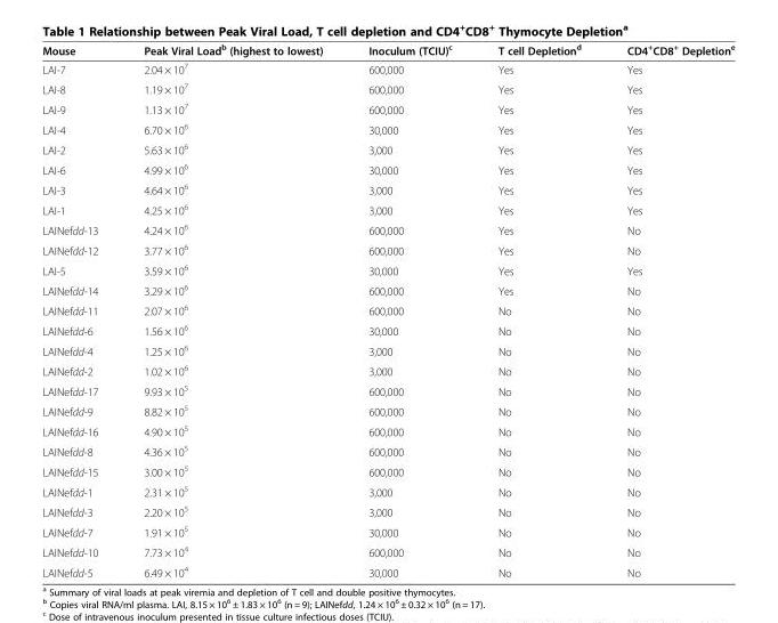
<table><thead><tr><td>Mouse</td><td>Peak Viral Load<sup>b</sup> (highest to lowest)</td><td>Inoculum (TCIU)<sup>c</sup></td><td>T cell Depletion<sup>d</sup></td><td>CD4<sup>+</sup>CD8<sup>+</sup> Depletion<sup>e</sup></td></tr></thead><tbody><tr><td>LAI-7</td><td>2.04 × 10<sup>7</sup></td><td>600,000</td><td>Yes</td><td>Yes</td></tr><tr><td>LAI-8</td><td>1.19 × 10<sup>7</sup></td><td>600,000</td><td>Yes</td><td>Yes</td></tr><tr><td>LAI-9</td><td>1.13 × 10<sup>7</sup></td><td>600,000</td><td>Yes</td><td>Yes</td></tr><tr><td>LAI-4</td><td>6.70 × 10<sup>6</sup></td><td>30,000</td><td>Yes</td><td>Yes</td></tr><tr><td>LAI-2</td><td>5.63 × 10<sup>6</sup></td><td>3,000</td><td>Yes</td><td>Yes</td></tr><tr><td>LAI-6</td><td>4.99 × 10<sup>6</sup></td><td>30,000</td><td>Yes</td><td>Yes</td></tr><tr><td>LAI-3</td><td>4.64 × 10<sup>6</sup></td><td>3,000</td><td>Yes</td><td>Yes</td></tr><tr><td>LAI-1</td><td>4.25 × 10<sup>6</sup></td><td>3,000</td><td>Yes</td><td>Yes</td></tr><tr><td>LAINefdd-13</td><td>4.24 × 10<sup>6</sup></td><td>600,000</td><td>Yes</td><td>No</td></tr><tr><td>LAINefdd-12</td><td>3.77 × 10<sup>6</sup></td><td>600,000</td><td>Yes</td><td>No</td></tr><tr><td>LAI-5</td><td>3.59 × 10<sup>6</sup></td><td>30,000</td><td>Yes</td><td>Yes</td></tr><tr><td>LAINefdd-14</td><td>3.29 × 10<sup>6</sup></td><td>600,000</td><td>Yes</td><td>No</td></tr><tr><td>LAINefdd-11</td><td>2.07 × 10<sup>6</sup></td><td>600,000</td><td>No</td><td>No</td></tr><tr><td>LAINefdd-6</td><td>1.56 × 10<sup>6</sup></td><td>30,000</td><td>No</td><td>No</td></tr><tr><td>LAINefdd-4</td><td>1.25 × 10<sup>6</sup></td><td>3,000</td><td>No</td><td>No</td></tr><tr><td>LAINefdd-2</td><td>1.02 × 10<sup>6</sup></td><td>3,000</td><td>No</td><td>No</td></tr><tr><td>LAINefdd-17</td><td>9.93 × 10<sup>5</sup></td><td>600,000</td><td>No</td><td>No</td></tr><tr><td>LAINefdd-9</td><td>8.82 × 10<sup>5</sup></td><td>600,000</td><td>No</td><td>No</td></tr><tr><td>LAINefdd-16</td><td>4.90 × 10<sup>5</sup></td><td>600,000</td><td>No</td><td>No</td></tr><tr><td>LAINefdd-8</td><td>4.36 × 10<sup>5</sup></td><td>600,000</td><td>No</td><td>No</td></tr><tr><td>LAINefdd-15</td><td>3.00 × 10<sup>5</sup></td><td>600,000</td><td>No</td><td>No</td></tr><tr><td>LAINefdd-1</td><td>2.31 × 10<sup>5</sup></td><td>3,000</td><td>No</td><td>No</td></tr><tr><td>LAINefdd-3</td><td>2.20 × 10<sup>5</sup></td><td>3,000</td><td>No</td><td>No</td></tr><tr><td>LAINefdd-7</td><td>1.91 × 10<sup>5</sup></td><td>30,000</td><td>No</td><td>No</td></tr><tr><td>LAINefdd-10</td><td>7.73 × 10<sup>4</sup></td><td>600,000</td><td>No</td><td>No</td></tr><tr><td>LAINefdd-5</td><td>6.49 × 10<sup>4</sup></td><td>30,000</td><td>No</td><td>No</td></tr></tbody></table>